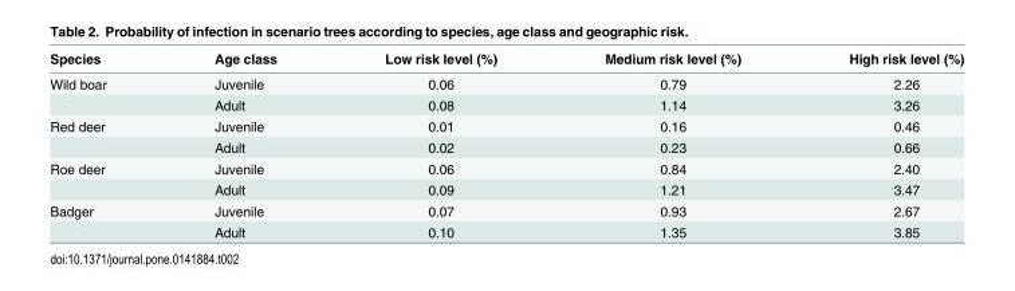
<table><thead><tr><td>Species</td><td>Age class</td><td>Low risk level (%)</td><td>Medium risk level (%)</td><td>High risk level (%)</td></tr></thead><tbody><tr><td rowspan="2">Wild boar</td><td>Juvenile</td><td>0.06</td><td>0.79</td><td>2.26</td></tr><tr><td>Adult</td><td>0.08</td><td>1.14</td><td>3.26</td></tr><tr><td rowspan="2">Red deer</td><td>Juvenile</td><td>0.01</td><td>0.16</td><td>0.46</td></tr><tr><td>Adult</td><td>0.02</td><td>0.23</td><td>0.66</td></tr><tr><td rowspan="2">Roe deer</td><td>Juvenile</td><td>0.06</td><td>0.84</td><td>2.40</td></tr><tr><td>Adult</td><td>0.09</td><td>1.21</td><td>3.47</td></tr><tr><td rowspan="2">Badger</td><td>Juvenile</td><td>0.07</td><td>0.93</td><td>2.67</td></tr><tr><td>Adult</td><td>0.10</td><td>1.35</td><td>3.85</td></tr></tbody></table>